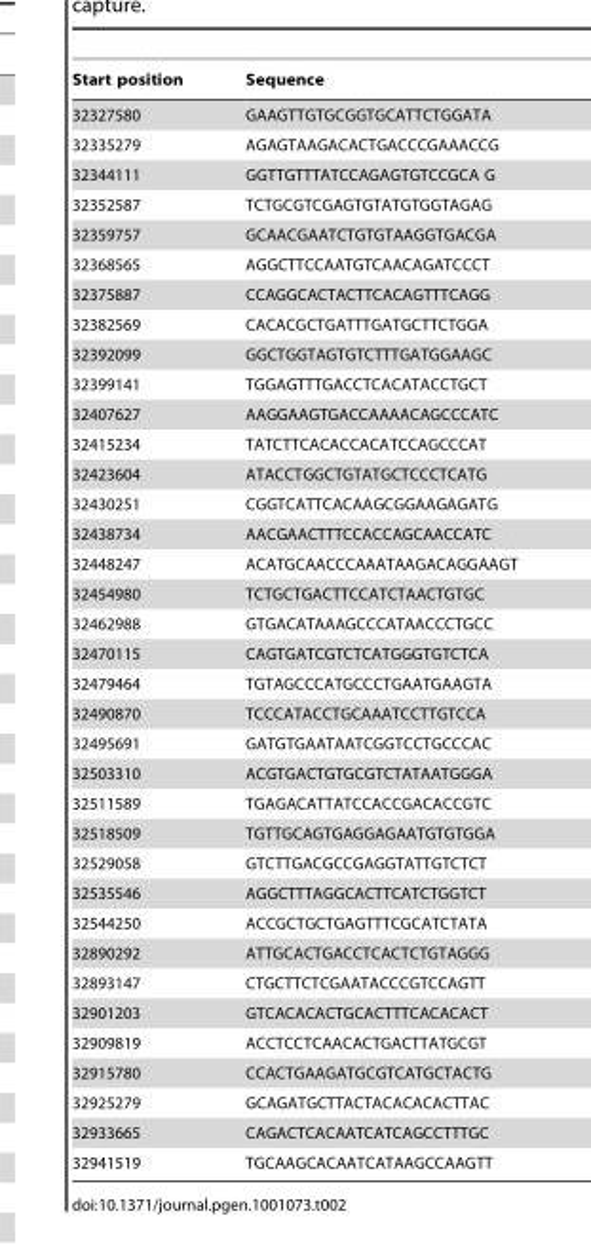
<table><thead><tr><td>Start position</td><td>Sequence</td></tr></thead><tbody><tr><td>32327580</td><td>GAAGTTGTGCGGTGCATTCTGGATA</td></tr><tr><td>32335279</td><td>AGAGTAAGACACTGACCCGAAACCG</td></tr><tr><td>32344111</td><td>GGTTGTTTATCCAGAGTGTCCGCA G</td></tr><tr><td>32352587</td><td>TCTGCGTCGAGTGTATGTGGTAGAG</td></tr><tr><td>32359757</td><td>GCAACGAATCTGTGTAAGGTGACGA</td></tr><tr><td>32368565</td><td>AGGCTTCCAATGTCAACAGATCCCT</td></tr><tr><td>32375887</td><td>CCAGGCACTACTTCACAGTTTCAGG</td></tr><tr><td>32382569</td><td>CACACGCTGATTTGATGCTTCTGGA</td></tr><tr><td>32392099</td><td>GGCTGGTAGTGTCTTTGATGGAAGC</td></tr><tr><td>32399141</td><td>TGGAGTTTGACCTCACATACCTGCT</td></tr><tr><td>32407627</td><td>AAGGAAGTGACCAAAACAGCCCATC</td></tr><tr><td>32415234</td><td>TATCTTCACACCACATCCAGCCCAT</td></tr><tr><td>32423604</td><td>ATACCTGGCTGTATGCTCCCTCATG</td></tr><tr><td>32430251</td><td>CGGTCATTCACAAGCGGAAGAGATG</td></tr><tr><td>32438734</td><td>AACGAACTTTCCACCAGCAACCATC</td></tr><tr><td>32448247</td><td>ACATGCAACCCAAATAAGACAGGAAGT</td></tr><tr><td>32454980</td><td>TCTGCTGACTTCCATCTAACTGTGC</td></tr><tr><td>32462988</td><td>GTGACATAAAGCCCATAACCCTGCC</td></tr><tr><td>32470115</td><td>CAGTGATCGTCTCATGGGTGTCTCA</td></tr><tr><td>32479464</td><td>TGTAGCCCATGCCCTGAATGAAGTA</td></tr><tr><td>32490870</td><td>TCCCATACCTGCAAATCCTTGTCCA</td></tr><tr><td>32495691</td><td>GATGTGAATAATCGGTCCTGCCCAC</td></tr><tr><td>32503310</td><td>ACGTGACTGTGCGTCTATAATGGGA</td></tr><tr><td>32511589</td><td>TGAGACATTATCCACCGACACCGTC</td></tr><tr><td>32518509</td><td>TGTTGCAGTGAGGAGAATGTGTGGA</td></tr><tr><td>32529058</td><td>GTCTTGACGCCGAGGTATTGTCTCT</td></tr><tr><td>32535546</td><td>AGGCTTTAGGCACTTCATCTGGTCT</td></tr><tr><td>32544250</td><td>ACCGCTGCTGAGTTTCGCATCTATA</td></tr><tr><td>32890292</td><td>ATTGCACTGACCTCACTCTGTAGGG</td></tr><tr><td>32893147</td><td>CTGCTTCTCGAATACCCGTCCAGTT</td></tr><tr><td>32901203</td><td>GTCACACACTGCACTTTCACACACT</td></tr><tr><td>32909819</td><td>ACCTCCTCAACACTGACTTATGCGT</td></tr><tr><td>32915780</td><td>CCACTGAAGATGCGTCATGCTACTG</td></tr><tr><td>32925279</td><td>GCAGATGCTTACTACACACACTTAC</td></tr><tr><td>32933665</td><td>CAGACTCACAATCATCAGCCTTTGC</td></tr><tr><td>32941519</td><td>TGCAAGCACAATCATAAGCCAAGTT</td></tr></tbody></table>